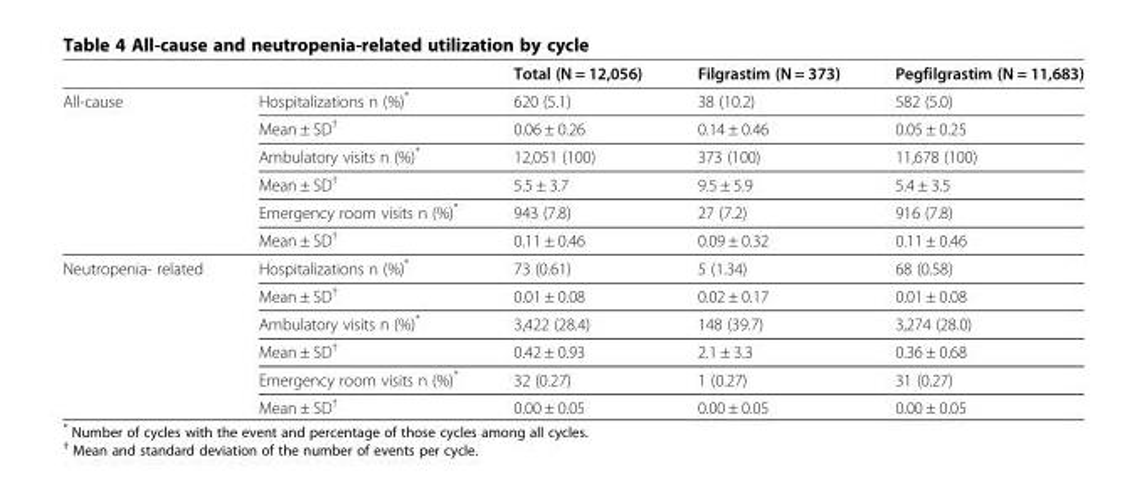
<table><thead><tr><td></td><td></td><td>Total (N = 12,056)</td><td>Filgrastim (N = 373)</td><td>Pegfilgrastim (N = 11,683)</td></tr></thead><tbody><tr><td rowspan="6">All-cause</td><td>Hospitalizations n (%)*</td><td>620 (5.1)</td><td>38 (10.2)</td><td>582 (5.0)</td></tr><tr><td>Mean ± SD<sup>†</sup></td><td>0.06 ± 0.26</td><td>0.14 ± 0.46</td><td>0.05 ± 0.25</td></tr><tr><td>Ambulatory visits n (%)*</td><td>12,051 (100)</td><td>373 (100)</td><td>11,678 (100)</td></tr><tr><td>Mean ± SD<sup>†</sup></td><td>5.5 ± 3.7</td><td>9.5 ± 5.9</td><td>5.4 ± 3.5</td></tr><tr><td>Emergency room visits n (%)*</td><td>943 (7.8)</td><td>27 (7.2)</td><td>916 (7.8)</td></tr><tr><td>Mean ± SD<sup>†</sup></td><td>0.11 ± 0.46</td><td>0.09 ± 0.32</td><td>0.11 ± 0.46</td></tr><tr><td rowspan="6">Neutropenia- related</td><td>Hospitalizations n (%)*</td><td>73 (0.61)</td><td>5 (1.34)</td><td>68 (0.58)</td></tr><tr><td>Mean ± SD<sup>†</sup></td><td>0.01 ± 0.08</td><td>0.02 ± 0.17</td><td>0.01 ± 0.08</td></tr><tr><td>Ambulatory visits n (%)*</td><td>3,422 (28.4)</td><td>148 (39.7)</td><td>3,274 (28.0)</td></tr><tr><td>Mean ± SD<sup>†</sup></td><td>0.42 ± 0.93</td><td>2.1 ± 3.3</td><td>0.36 ± 0.68</td></tr><tr><td>Emergency room visits n (%)*</td><td>32 (0.27)</td><td>1 (0.27)</td><td>31 (0.27)</td></tr><tr><td>Mean ± SD<sup>†</sup></td><td>0.00 ± 0.05</td><td>0.00 ± 0.05</td><td>0.00 ± 0.05</td></tr></tbody></table>